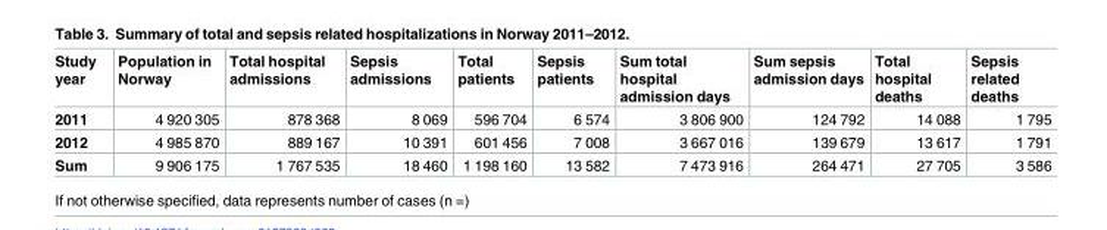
<table><thead><tr><td>Study year</td><td>Population in Norway</td><td>Total hospital admissions</td><td>Sepsis admissions</td><td>Total patients</td><td>Sepsis patients</td><td>Sum total hospital admission days</td><td>Sum sepsis admission days</td><td>Total hospital deaths</td><td>Sepsis related deaths</td></tr></thead><tbody><tr><td>2011</td><td>4 920 305</td><td>878 368</td><td>8 069</td><td>596 704</td><td>6 574</td><td>3 806 900</td><td>124 792</td><td>14 088</td><td>1 795</td></tr><tr><td>2012</td><td>4 985 870</td><td>889 167</td><td>10 391</td><td>601 456</td><td>7 008</td><td>3 667 016</td><td>139 679</td><td>13 617</td><td>1 791</td></tr><tr><td>Sum</td><td>9 906 175</td><td>1 767 535</td><td>18 460</td><td>1 198 160</td><td>13 582</td><td>7 473 916</td><td>264 471</td><td>27 705</td><td>3 586</td></tr></tbody></table>